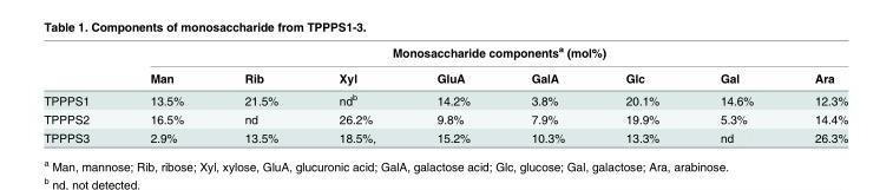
<table><thead><tr><td rowspan="2"></td><td colspan="8">Monosaccharide components<sup>a</sup> (mol%)</td></tr><tr><td>Man</td><td>Rib</td><td>Xyl</td><td>GluA</td><td>GalA</td><td>Glc</td><td>Gal</td><td>Ara</td></tr></thead><tbody><tr><td>TPPPS1</td><td>13.5%</td><td>21.5%</td><td>nd<sup>b</sup></td><td>14.2%</td><td>3.8%</td><td>20.1%</td><td>14.6%</td><td>12.3%</td></tr><tr><td>TPPPS2</td><td>16.5%</td><td>nd</td><td>26.2%</td><td>9.8%</td><td>7.9%</td><td>19.9%</td><td>5.3%</td><td>14.4%</td></tr><tr><td>TPPPS3</td><td>2.9%</td><td>13.5%</td><td>18.5%,</td><td>15.2%</td><td>10.3%</td><td>13.3%</td><td>nd</td><td>26.3%</td></tr></tbody></table>